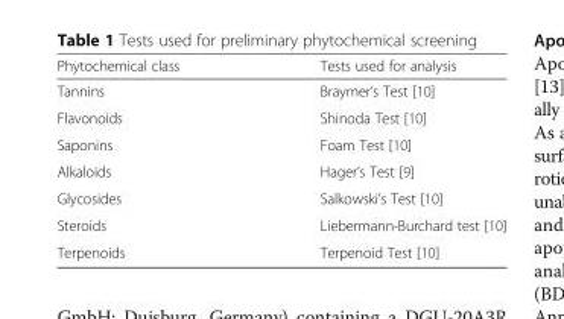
<table><thead><tr><td>Phytochemical class</td><td>Tests used for analysis</td></tr></thead><tbody><tr><td>Tannins</td><td>Braymer’s Test [10]</td></tr><tr><td>Flavonoids</td><td>Shinoda Test [10]</td></tr><tr><td>Saponins</td><td>Foam Test [10]</td></tr><tr><td>Alkaloids</td><td>Hager’s Test [9]</td></tr><tr><td>Glycosides</td><td>Salkowski’s Test [10]</td></tr><tr><td>Steroids</td><td>Liebermann-Burchard test [10]</td></tr><tr><td>Terpenoids</td><td>Terpenoid Test [10]</td></tr></tbody></table>